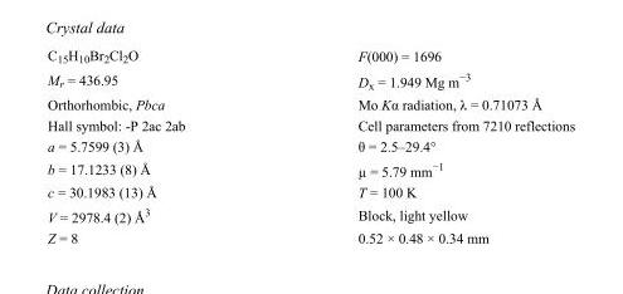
<table><tbody><tr><td>C<sub>15</sub>H<sub>10</sub>Br<sub>2</sub>Cl<sub>2</sub>O</td><td>F(000) = 1696</td></tr><tr><td>M<sub>r</sub> = 436.95</td><td>D<sub>x</sub> = 1.949 Mg m<sup>−3</sup></td></tr><tr><td>Orthorhombic, Pbca</td><td>Mo Kα radiation, λ = 0.71073 Å</td></tr><tr><td>Hall symbol: -P 2ac 2ab</td><td>Cell parameters from 7210 reflections</td></tr><tr><td>a = 5.7599 (3) Å</td><td>θ = 2.5–29.4°</td></tr><tr><td>b = 17.1233 (8) Å</td><td>µ = 5.79 mm<sup>−1</sup></td></tr><tr><td>c = 30.1983 (13) Å</td><td>T = 100 K</td></tr><tr><td>V = 2978.4 (2) Å<sup>3</sup></td><td>Block, light yellow</td></tr><tr><td>Z = 8</td><td>0.52 × 0.48 × 0.34 mm</td></tr></tbody></table>